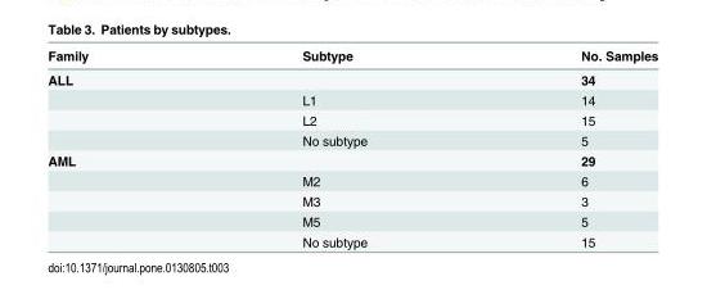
<table><thead><tr><td>Family</td><td>Subtype</td><td>No. Samples</td></tr></thead><tbody><tr><td rowspan="4">ALL</td><td></td><td>34</td></tr><tr><td>L1</td><td>14</td></tr><tr><td>L2</td><td>15</td></tr><tr><td>No subtype</td><td>5</td></tr><tr><td rowspan="5">AML</td><td></td><td>29</td></tr><tr><td>M2</td><td>6</td></tr><tr><td>M3</td><td>3</td></tr><tr><td>M5</td><td>5</td></tr><tr><td>No subtype</td><td>15</td></tr></tbody></table>